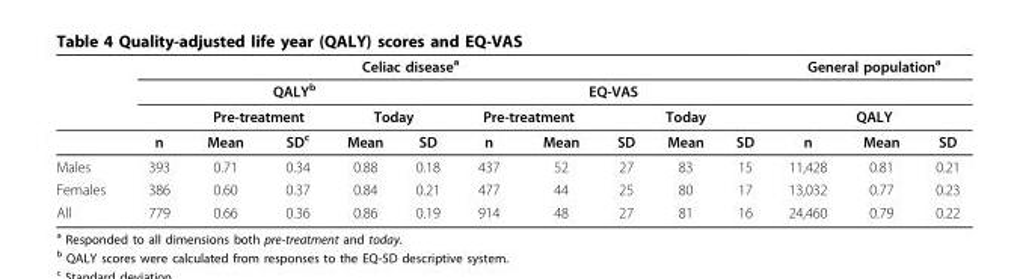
<table><thead><tr><td colspan="11">Celiac disease<sup>a</sup></td><td colspan="3">General population<sup>a</sup></td></tr><tr><td rowspan="3"></td><td colspan="5">QALY<sup>b</sup></td><td colspan="5">EQ-VAS</td><td></td><td></td><td></td></tr><tr><td rowspan="2">n</td><td colspan="2">Pre-treatment</td><td colspan="2">Today</td><td colspan="2">Pre-treatment</td><td colspan="3">Today</td><td colspan="3">QALY</td></tr><tr><td>Mean</td><td>SD<sup>c</sup></td><td>Mean</td><td>SD</td><td>n</td><td>Mean</td><td>SD</td><td>Mean</td><td>SD</td><td>n</td><td>Mean</td><td>SD</td></tr></thead><tbody><tr><td>Males</td><td>393</td><td>0.71</td><td>0.34</td><td>0.88</td><td>0.18</td><td>437</td><td>52</td><td>27</td><td>83</td><td>15</td><td>11,428</td><td>0.81</td><td>0.21</td></tr><tr><td>Females</td><td>386</td><td>0.60</td><td>0.37</td><td>0.84</td><td>0.21</td><td>477</td><td>44</td><td>25</td><td>80</td><td>17</td><td>13,032</td><td>0.77</td><td>0.23</td></tr><tr><td>All</td><td>779</td><td>0.66</td><td>0.36</td><td>0.86</td><td>0.19</td><td>914</td><td>48</td><td>27</td><td>81</td><td>16</td><td>24,460</td><td>0.79</td><td>0.22</td></tr></tbody></table>